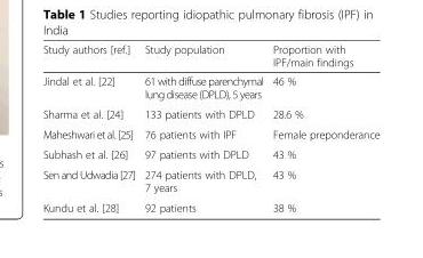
<table><thead><tr><td>Study authors [ref.]</td><td>Study population</td><td>Proportion with IPF/main findings</td></tr></thead><tbody><tr><td>Jindal et al. [22]</td><td>61 with diffuse parenchymal lung disease (DPLD), 5 years</td><td>46 %</td></tr><tr><td>Sharma et al. [24]</td><td>133 patients with DPLD</td><td>28.6 %</td></tr><tr><td>Maheshwari et al. [25]</td><td>76 patients with IPF</td><td>Female preponderance</td></tr><tr><td>Subhash et al. [26]</td><td>97 patients with DPLD</td><td>43 %</td></tr><tr><td>Sen and Udwadia [27]</td><td>274 patients with DPLD, 7 years</td><td>43 %</td></tr><tr><td>Kundu et al. [28]</td><td>92 patients</td><td>38 %</td></tr></tbody></table>